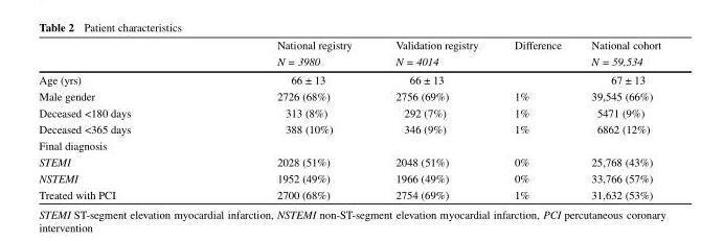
<table><thead><tr><td rowspan="2"></td><td rowspan="2">National registry N = 3980</td><td rowspan="2">Validation registry N = 4014</td><td rowspan="2">Difference</td><td rowspan="2">National cohort N = 59,534</td></tr><tr></tr></thead><tbody><tr><td>Age (yrs)</td><td>66 ± 13</td><td>66 ± 13</td><td></td><td>67 ± 13</td></tr><tr><td>Male gender</td><td>2726 (68%)</td><td>2756 (69%)</td><td>1%</td><td>39,545 (66%)</td></tr><tr><td>Deceased &lt;180 days</td><td>313 (8%)</td><td>292 (7%)</td><td>1%</td><td>5471 (9%)</td></tr><tr><td>Deceased &lt;365 days</td><td>388 (10%)</td><td>346 (9%)</td><td>1%</td><td>6862 (12%)</td></tr><tr><td colspan="5">Final diagnosis</td></tr><tr><td>STEMI</td><td>2028 (51%)</td><td>2048 (51%)</td><td>0%</td><td>25,768 (43%)</td></tr><tr><td>NSTEMI</td><td>1952 (49%)</td><td>1966 (49%)</td><td>0%</td><td>33,766 (57%)</td></tr><tr><td>Treated with PCI</td><td>2700 (68%)</td><td>2754 (69%)</td><td>1%</td><td>31,632 (53%)</td></tr></tbody></table>